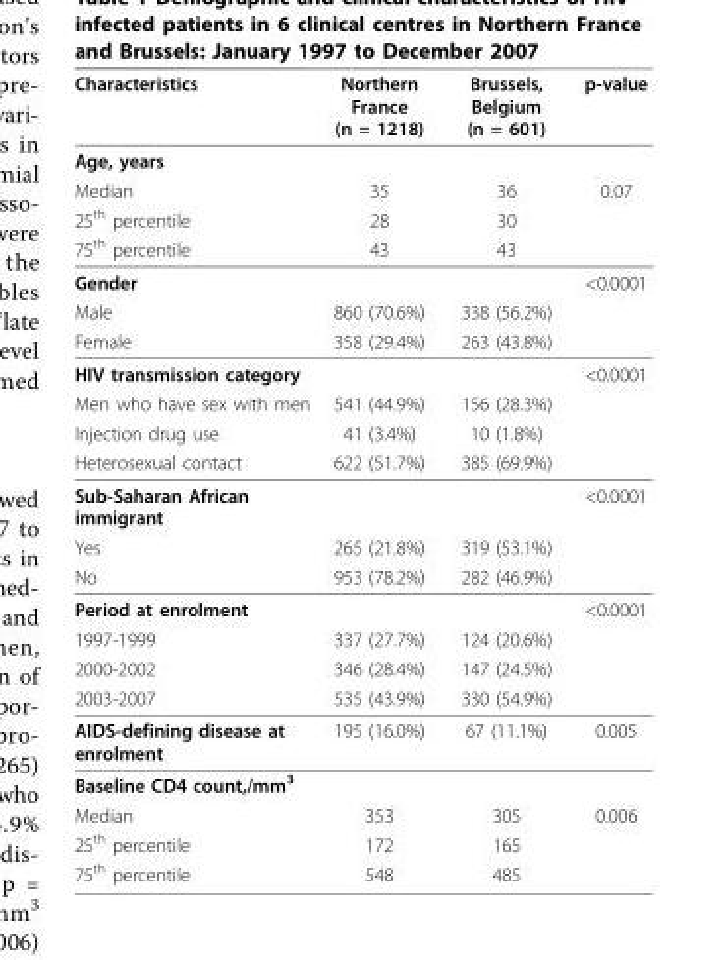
<table><thead><tr><td>Characteristics</td><td>Northern France (n = 1218)</td><td>Brussels, Belgium (n = 601)</td><td>p-value</td></tr></thead><tbody><tr><td colspan="4">Age, years</td></tr><tr><td>Median</td><td>35</td><td>36</td><td>0.07</td></tr><tr><td>25<sup>th</sup> percentile</td><td>28</td><td>30</td><td></td></tr><tr><td>75<sup>th</sup> percentile</td><td>43</td><td>43</td><td></td></tr><tr><td>Gender</td><td></td><td></td><td>&lt;0.0001</td></tr><tr><td>Male</td><td>860 (70.6%)</td><td>338 (56.2%)</td><td></td></tr><tr><td>Female</td><td>358 (29.4%)</td><td>263 (43.8%)</td><td></td></tr><tr><td>HIV transmission category</td><td></td><td></td><td>&lt;0.0001</td></tr><tr><td>Men who have sex with men</td><td>541 (44.9%)</td><td>156 (28.3%)</td><td></td></tr><tr><td>Injection drug use</td><td>41 (3.4%)</td><td>10 (1.8%)</td><td></td></tr><tr><td>Heterosexual contact</td><td>622 (51.7%)</td><td>385 (69.9%)</td><td></td></tr><tr><td>Sub-Saharan African immigrant</td><td></td><td></td><td>&lt;0.0001</td></tr><tr><td>Yes</td><td>265 (21.8%)</td><td>319 (53.1%)</td><td></td></tr><tr><td>No</td><td>953 (78.2%)</td><td>282 (46.9%)</td><td></td></tr><tr><td>Period at enrolment</td><td></td><td></td><td>&lt;0.0001</td></tr><tr><td>1997-1999</td><td>337 (27.7%)</td><td>124 (20.6%)</td><td></td></tr><tr><td>2000-2002</td><td>346 (28.4%)</td><td>147 (24.5%)</td><td></td></tr><tr><td>2003-2007</td><td>535 (43.9%)</td><td>330 (54.9%)</td><td></td></tr><tr><td>AIDS-defining disease at enrolment</td><td>195 (16.0%)</td><td>67 (11.1%)</td><td>0.005</td></tr><tr><td colspan="4">Baseline CD4 count,/mm<sup>3</sup></td></tr><tr><td>Median</td><td>353</td><td>305</td><td>0.006</td></tr><tr><td>25<sup>th</sup> percentile</td><td>172</td><td>165</td><td></td></tr><tr><td>75<sup>th</sup> percentile</td><td>548</td><td>485</td><td></td></tr></tbody></table>